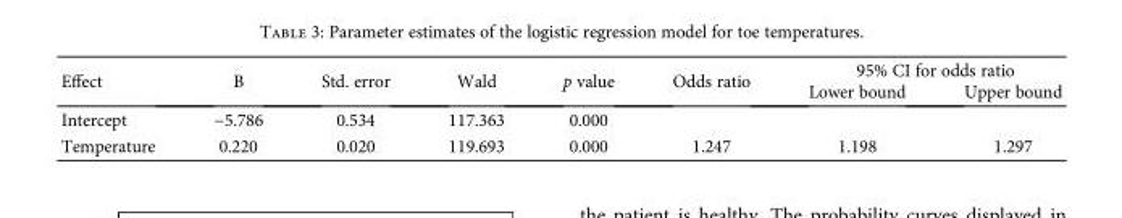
<table><thead><tr><td rowspan="2">Effect</td><td rowspan="2">B</td><td rowspan="2">Std. error</td><td rowspan="2">Wald</td><td rowspan="2">p value</td><td rowspan="2">Odds ratio</td><td colspan="2">95% CI for odds ratio</td></tr><tr><td>Lower bound</td><td>Upper bound</td></tr></thead><tbody><tr><td>Intercept</td><td>−5.786</td><td>0.534</td><td>117.363</td><td>0.000</td><td></td><td></td><td></td></tr><tr><td>Temperature</td><td>0.220</td><td>0.020</td><td>119.693</td><td>0.000</td><td>1.247</td><td>1.198</td><td>1.297</td></tr></tbody></table>